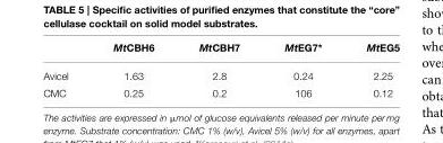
<table><thead><tr><td></td><td>MtCBH6</td><td>MtCBH7</td><td>MtEG7*</td><td>MtEG5</td></tr></thead><tbody><tr><td>Avicel</td><td>1.63</td><td>2.8</td><td>0.24</td><td>2.25</td></tr><tr><td>CMC</td><td>0.25</td><td>0.2</td><td>106</td><td>0.12</td></tr></tbody></table>